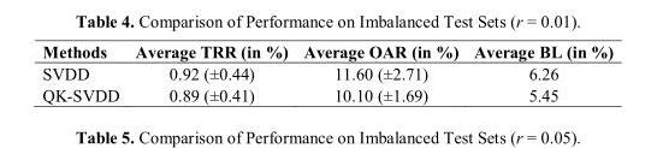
<table><thead><tr><td>Methods</td><td>Average TRR (in %)</td><td>Average OAR (in %)</td><td>Average BL (in %)</td></tr></thead><tbody><tr><td>SVDD</td><td>0.92 (±0.44)</td><td>11.60 (±2.71)</td><td>6.26</td></tr><tr><td>QK-SVDD</td><td>0.89 (±0.41)</td><td>10.10 (±1.69)</td><td>5.45</td></tr></tbody></table>